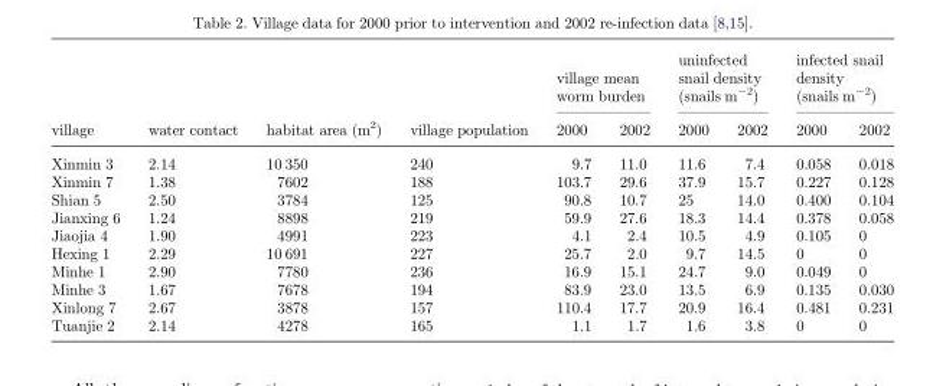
<table><thead><tr><td rowspan="2">village</td><td rowspan="2">water contact</td><td rowspan="2">habitat area (m<sup>2</sup>)</td><td rowspan="2">village population</td><td colspan="2">village mean worm burden</td><td colspan="2">uninfected snail density (snails m<sup>−2</sup>)</td><td colspan="2">infected snail density (snails m<sup>−2</sup>)</td></tr><tr><td>2000</td><td>2002</td><td>2000</td><td>2002</td><td>2000</td><td>2002</td></tr></thead><tbody><tr><td>Xinmin 3</td><td>2.14</td><td>10 350</td><td>240</td><td>9.7</td><td>11.0</td><td>11.6</td><td>7.4</td><td>0.058</td><td>0.018</td></tr><tr><td>Xinmin 7</td><td>1.38</td><td>7602</td><td>188</td><td>103.7</td><td>29.6</td><td>37.9</td><td>15.7</td><td>0.227</td><td>0.128</td></tr><tr><td>Shian 5</td><td>2.50</td><td>3784</td><td>125</td><td>90.8</td><td>10.7</td><td>25</td><td>14.0</td><td>0.400</td><td>0.104</td></tr><tr><td>Jianxing 6</td><td>1.24</td><td>8898</td><td>219</td><td>59.9</td><td>27.6</td><td>18.3</td><td>14.4</td><td>0.378</td><td>0.058</td></tr><tr><td>Jiaojia 4</td><td>1.90</td><td>4991</td><td>223</td><td>4.1</td><td>2.4</td><td>10.5</td><td>4.9</td><td>0.105</td><td>0</td></tr><tr><td>Hexing 1</td><td>2.29</td><td>10 691</td><td>227</td><td>25.7</td><td>2.0</td><td>9.7</td><td>14.5</td><td>0</td><td>0</td></tr><tr><td>Minhe 1</td><td>2.90</td><td>7780</td><td>236</td><td>16.9</td><td>15.1</td><td>24.7</td><td>9.0</td><td>0.049</td><td>0</td></tr><tr><td>Minhe 3</td><td>1.67</td><td>7678</td><td>194</td><td>83.9</td><td>23.0</td><td>13.5</td><td>6.9</td><td>0.135</td><td>0.030</td></tr><tr><td>Xinlong 7</td><td>2.67</td><td>3878</td><td>157</td><td>110.4</td><td>17.7</td><td>20.9</td><td>16.4</td><td>0.481</td><td>0.231</td></tr><tr><td>Tuanjie 2</td><td>2.14</td><td>4278</td><td>165</td><td>1.1</td><td>1.7</td><td>1.6</td><td>3.8</td><td>0</td><td>0</td></tr></tbody></table>